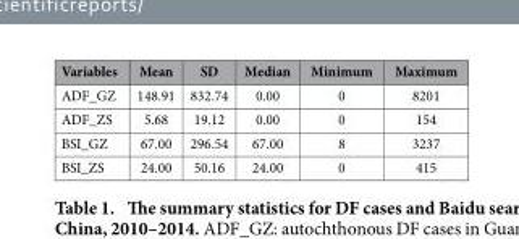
<table><thead><tr><td>Variables</td><td>Mean</td><td>SD</td><td>Median</td><td>Minimum</td><td>Maximum</td></tr></thead><tbody><tr><td>ADF_GZ</td><td>148.91</td><td>832.74</td><td>0.00</td><td>0</td><td>8201</td></tr><tr><td>ADF_ZS</td><td>5.68</td><td>19.12</td><td>0.00</td><td>0</td><td>154</td></tr><tr><td>BSI_GZ</td><td>67.00</td><td>296.54</td><td>67.00</td><td>8</td><td>3237</td></tr><tr><td>BSI_ZS</td><td>24.00</td><td>50.16</td><td>24.00</td><td>0</td><td>415</td></tr></tbody></table>